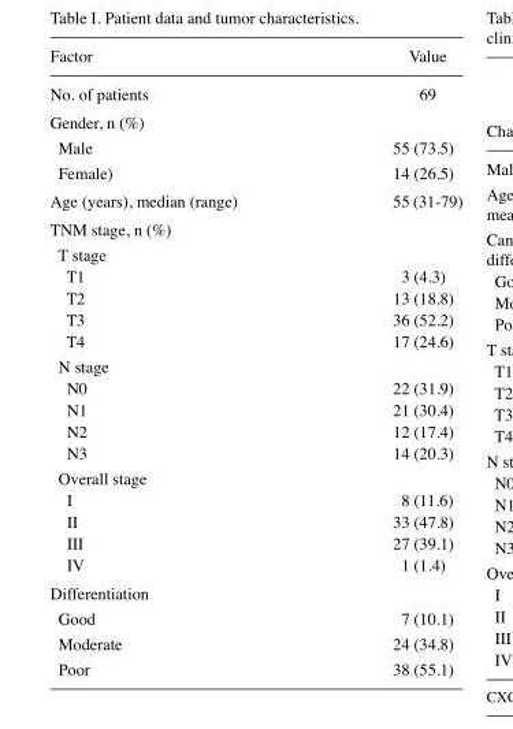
<table><thead><tr><td>Factor</td><td>Value</td></tr></thead><tbody><tr><td>No. of patients</td><td>69</td></tr><tr><td colspan="2">Gender, n (%)</td></tr><tr><td>Male</td><td>55 (73.5)</td></tr><tr><td>Female)</td><td>14 (26.5)</td></tr><tr><td>Age (years), median (range)</td><td>55 (31-79)</td></tr><tr><td colspan="2">TNM stage, n (%)</td></tr><tr><td colspan="2">T stage</td></tr><tr><td>T1</td><td>3 (4.3)</td></tr><tr><td>T2</td><td>13 (18.8)</td></tr><tr><td>T3</td><td>36 (52.2)</td></tr><tr><td>T4</td><td>17 (24.6)</td></tr><tr><td colspan="2">N stage</td></tr><tr><td>N0</td><td>22 (31.9)</td></tr><tr><td>N1</td><td>21 (30.4)</td></tr><tr><td>N2</td><td>12 (17.4)</td></tr><tr><td>N3</td><td>14 (20.3)</td></tr><tr><td colspan="2">Overall stage</td></tr><tr><td>I</td><td>8 (11.6)</td></tr><tr><td>II</td><td>33 (47.8)</td></tr><tr><td>III</td><td>27 (39.1)</td></tr><tr><td>IV</td><td>1 (1.4)</td></tr><tr><td colspan="2">Differentiation</td></tr><tr><td>Good</td><td>7 (10.1)</td></tr><tr><td>Moderate</td><td>24 (34.8)</td></tr><tr><td>Poor</td><td>38 (55.1)</td></tr></tbody></table>